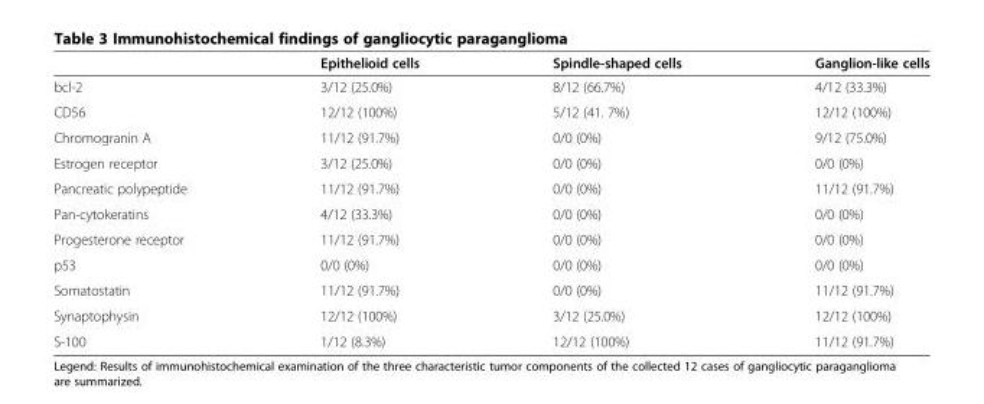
<table><thead><tr><td></td><td>Epithelioid cells</td><td>Spindle-shaped cells</td><td>Ganglion-like cells</td></tr></thead><tbody><tr><td>bcl-2</td><td>3/12 (25.0%)</td><td>8/12 (66.7%)</td><td>4/12 (33.3%)</td></tr><tr><td>CD56</td><td>12/12 (100%)</td><td>5/12 (41. 7%)</td><td>12/12 (100%)</td></tr><tr><td>Chromogranin A</td><td>11/12 (91.7%)</td><td>0/0 (0%)</td><td>9/12 (75.0%)</td></tr><tr><td>Estrogen receptor</td><td>3/12 (25.0%)</td><td>0/0 (0%)</td><td>0/0 (0%)</td></tr><tr><td>Pancreatic polypeptide</td><td>11/12 (91.7%)</td><td>0/0 (0%)</td><td>11/12 (91.7%)</td></tr><tr><td>Pan-cytokeratins</td><td>4/12 (33.3%)</td><td>0/0 (0%)</td><td>0/0 (0%)</td></tr><tr><td>Progesterone receptor</td><td>11/12 (91.7%)</td><td>0/0 (0%)</td><td>0/0 (0%)</td></tr><tr><td>p53</td><td>0/0 (0%)</td><td>0/0 (0%)</td><td>0/0 (0%)</td></tr><tr><td>Somatostatin</td><td>11/12 (91.7%)</td><td>0/0 (0%)</td><td>11/12 (91.7%)</td></tr><tr><td>Synaptophysin</td><td>12/12 (100%)</td><td>3/12 (25.0%)</td><td>12/12 (100%)</td></tr><tr><td>S-100</td><td>1/12 (8.3%)</td><td>12/12 (100%)</td><td>11/12 (91.7%)</td></tr></tbody></table>